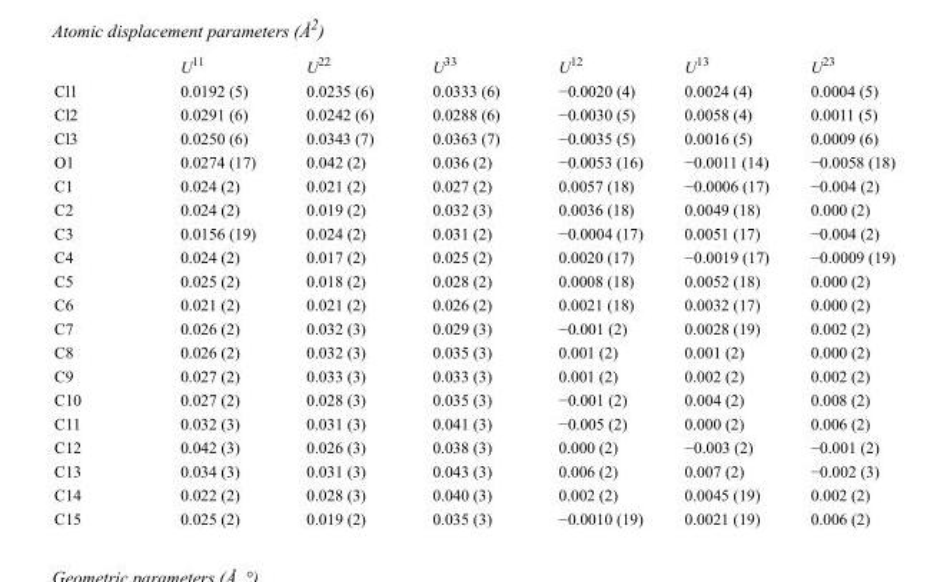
<table><thead><tr><td></td><td>U<sup>11</sup></td><td>U<sup>22</sup></td><td>U<sup>33</sup></td><td>U<sup>12</sup></td><td>U<sup>13</sup></td><td>U<sup>23</sup></td></tr></thead><tbody><tr><td>Cl1</td><td>0.0192 (5)</td><td>0.0235 (6)</td><td>0.0333 (6)</td><td>−0.0020 (4)</td><td>0.0024 (4)</td><td>0.0004 (5)</td></tr><tr><td>Cl2</td><td>0.0291 (6)</td><td>0.0242 (6)</td><td>0.0288 (6)</td><td>−0.0030 (5)</td><td>0.0058 (4)</td><td>0.0011 (5)</td></tr><tr><td>Cl3</td><td>0.0250 (6)</td><td>0.0343 (7)</td><td>0.0363 (7)</td><td>−0.0035 (5)</td><td>0.0016 (5)</td><td>0.0009 (6)</td></tr><tr><td>O1</td><td>0.0274 (17)</td><td>0.042 (2)</td><td>0.036 (2)</td><td>−0.0053 (16)</td><td>−0.0011 (14)</td><td>−0.0058 (18)</td></tr><tr><td>C1</td><td>0.024 (2)</td><td>0.021 (2)</td><td>0.027 (2)</td><td>0.0057 (18)</td><td>−0.0006 (17)</td><td>−0.004 (2)</td></tr><tr><td>C2</td><td>0.024 (2)</td><td>0.019 (2)</td><td>0.032 (3)</td><td>0.0036 (18)</td><td>0.0049 (18)</td><td>0.000 (2)</td></tr><tr><td>C3</td><td>0.0156 (19)</td><td>0.024 (2)</td><td>0.031 (2)</td><td>−0.0004 (17)</td><td>0.0051 (17)</td><td>−0.004 (2)</td></tr><tr><td>C4</td><td>0.024 (2)</td><td>0.017 (2)</td><td>0.025 (2)</td><td>0.0020 (17)</td><td>−0.0019 (17)</td><td>−0.0009 (19)</td></tr><tr><td>C5</td><td>0.025 (2)</td><td>0.018 (2)</td><td>0.028 (2)</td><td>0.0008 (18)</td><td>0.0052 (18)</td><td>0.000 (2)</td></tr><tr><td>C6</td><td>0.021 (2)</td><td>0.021 (2)</td><td>0.026 (2)</td><td>0.0021 (18)</td><td>0.0032 (17)</td><td>0.000 (2)</td></tr><tr><td>C7</td><td>0.026 (2)</td><td>0.032 (3)</td><td>0.029 (3)</td><td>−0.001 (2)</td><td>0.0028 (19)</td><td>0.002 (2)</td></tr><tr><td>C8</td><td>0.026 (2)</td><td>0.032 (3)</td><td>0.035 (3)</td><td>0.001 (2)</td><td>0.001 (2)</td><td>0.000 (2)</td></tr><tr><td>C9</td><td>0.027 (2)</td><td>0.033 (3)</td><td>0.033 (3)</td><td>0.001 (2)</td><td>0.002 (2)</td><td>0.002 (2)</td></tr><tr><td>C10</td><td>0.027 (2)</td><td>0.028 (3)</td><td>0.035 (3)</td><td>−0.001 (2)</td><td>0.004 (2)</td><td>0.008 (2)</td></tr><tr><td>C11</td><td>0.032 (3)</td><td>0.031 (3)</td><td>0.041 (3)</td><td>−0.005 (2)</td><td>0.000 (2)</td><td>0.006 (2)</td></tr><tr><td>C12</td><td>0.042 (3)</td><td>0.026 (3)</td><td>0.038 (3)</td><td>0.000 (2)</td><td>−0.003 (2)</td><td>−0.001 (2)</td></tr><tr><td>C13</td><td>0.034 (3)</td><td>0.031 (3)</td><td>0.043 (3)</td><td>0.006 (2)</td><td>0.007 (2)</td><td>−0.002 (3)</td></tr><tr><td>C14</td><td>0.022 (2)</td><td>0.028 (3)</td><td>0.040 (3)</td><td>0.002 (2)</td><td>0.0045 (19)</td><td>0.002 (2)</td></tr><tr><td>C15</td><td>0.025 (2)</td><td>0.019 (2)</td><td>0.035 (3)</td><td>−0.0010 (19)</td><td>0.0021 (19)</td><td>0.006 (2)</td></tr></tbody></table>